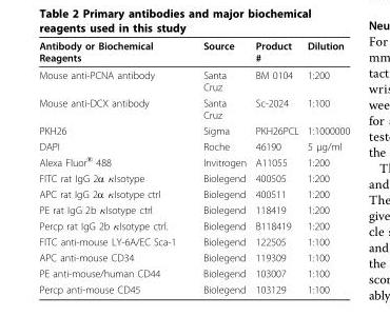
<table><thead><tr><td>Antibody or Biochemical Reagents</td><td>Source</td><td>Product #</td><td>Dilution</td></tr></thead><tbody><tr><td>Mouse anti-PCNA antibody</td><td>Santa Cruz</td><td>BM 0104</td><td>1:200</td></tr><tr><td>Mouse anti-DCX antibody</td><td>Santa Cruz</td><td>Sc-2024</td><td>1:100</td></tr><tr><td>PKH26</td><td>Sigma</td><td>PKH26PCL</td><td>1:1000000</td></tr><tr><td>DAPI</td><td>Roche</td><td>46190</td><td>5 μg/ml</td></tr><tr><td>Alexa Fluor<sup>®</sup> 488</td><td>Invitrogen</td><td>A11055</td><td>1:200</td></tr><tr><td>FITC rat IgG 2α κIsotype</td><td>Biolegend</td><td>400505</td><td>1:200</td></tr><tr><td>APC rat IgG 2α κIsotype ctrl</td><td>Biolegend</td><td>400511</td><td>1:200</td></tr><tr><td>PE rat IgG 2b κIsotype ctrl</td><td>Biolegend</td><td>118419</td><td>1:200</td></tr><tr><td>Percp rat IgG 2b κIsotype ctrl.</td><td>Biolegend</td><td>B118419</td><td>1:200</td></tr><tr><td>FITC anti-mouse LY-6A/EC Sca-1</td><td>Biolegend</td><td>122505</td><td>1:100</td></tr><tr><td>APC anti-mouse CD34</td><td>Biolegend</td><td>119309</td><td>1:100</td></tr><tr><td>PE anti-mouse/human CD44</td><td>Biolegend</td><td>103007</td><td>1:100</td></tr><tr><td>Percp anti-mouse CD45</td><td>Biolegend</td><td>103129</td><td>1:100</td></tr></tbody></table>